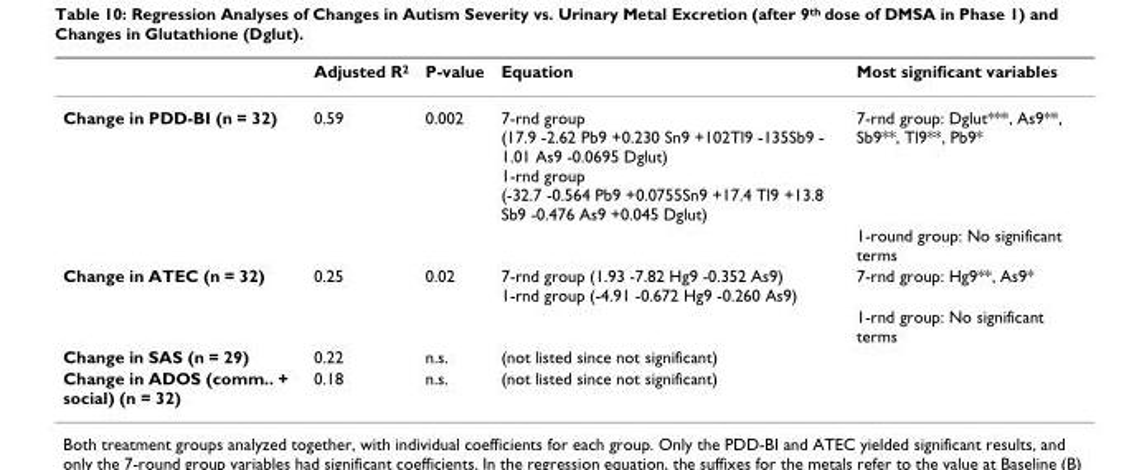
<table><thead><tr><td></td><td>Adjusted R<sup>2</sup></td><td>P-value</td><td>Equation</td><td>Most significant variables</td></tr></thead><tbody><tr><td rowspan="2">Change in PDD-BI (n = 32)</td><td>0.59</td><td>0.002</td><td>7-rnd group (17.9 -2.62 Pb9 +0.230 Sn9 +102Tl9 -135Sb9 - 1.01 As9 -0.0695 Dglut) 1-rnd group (-32.7 -0.564 Pb9 +0.0755Sn9 +17.4 Tl9 +13.8 Sb9 -0.476 As9 +0.045 Dglut)</td><td>7-rnd group: Dglut***, As9**, Sb9**, Tl9**, Pb9*</td></tr><tr><td></td><td></td><td></td><td>1-round group: No significant terms</td></tr><tr><td rowspan="2">Change in ATEC (n = 32)</td><td>0.25</td><td>0.02</td><td>7-rnd group (1.93 -7.82 Hg9 -0.352 As9) 1-rnd group (-4.91 -0.672 Hg9 -0.260 As9)</td><td>7-rnd group: Hg9**, As9*</td></tr><tr><td></td><td></td><td></td><td>1-rnd group: No significant terms</td></tr><tr><td>Change in SAS (n = 29)</td><td>0.22</td><td>n.s.</td><td>(not listed since not significant)</td><td></td></tr><tr><td>Change in ADOS (comm.. + social) (n = 32)</td><td>0.18</td><td>n.s.</td><td>(not listed since not significant)</td><td></td></tr></tbody></table>